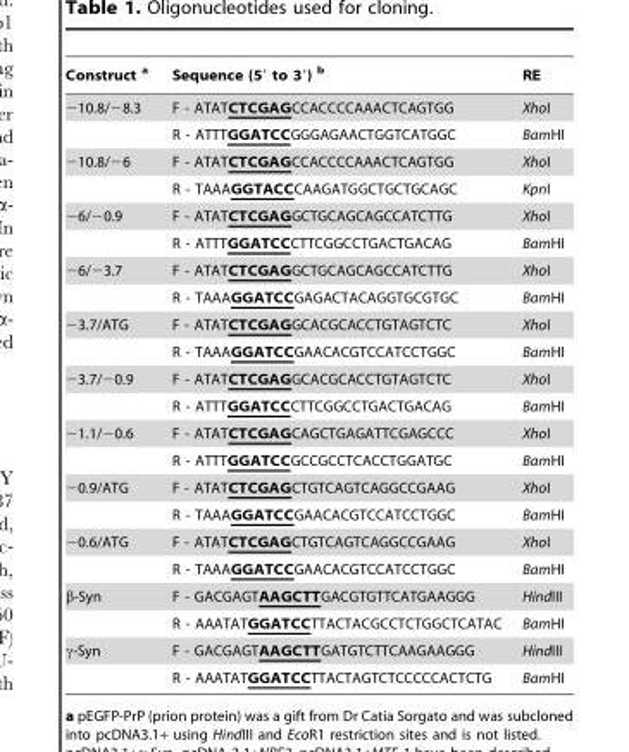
<table><thead><tr><td>Construct a</td><td>Sequence (5′ to 3′) b</td><td>RE</td></tr></thead><tbody><tr><td rowspan="2">−10.8/−8.3</td><td>F - ATATCTCGAGCCACCCCAAACTCAGTGG</td><td>XhoI</td></tr><tr><td>R - ATTTGGATCCGGGAGAACTGGTCATGGC</td><td>BamHI</td></tr><tr><td rowspan="2">−10.8/−6</td><td>F - ATATCTCGAGCCACCCCAAACTCAGTGG</td><td>XhoI</td></tr><tr><td>R - TAAAGGTACCCAAGATGGCTGCTGCAGC</td><td>KpnI</td></tr><tr><td rowspan="2">−6/−0.9</td><td>F - ATATCTCGAGGCTGCAGCAGCCATCTTG</td><td>XhoI</td></tr><tr><td>R - ATTTGGATCCCTTCGGCCTGACTGACAG</td><td>BamHI</td></tr><tr><td rowspan="2">−6/−3.7</td><td>F - ATATCTCGAGGCTGCAGCAGCCATCTTG</td><td>XhoI</td></tr><tr><td>R - TAAAGGATCCGAGACTACAGGTGCGTGC</td><td>BamHI</td></tr><tr><td rowspan="2">−3.7/ATG</td><td>F - ATATCTCGAGGCACGCACCTGTAGTCTC</td><td>XhoI</td></tr><tr><td>R - TAAAGGATCCGAACACGTCCATCCTGGC</td><td>BamHI</td></tr><tr><td rowspan="2">−3.7/−0.9</td><td>F - ATATCTCGAGGCACGCACCTGTAGTCTC</td><td>XhoI</td></tr><tr><td>R - ATTTGGATCCCTTCGGCCTGACTGACAG</td><td>BamHI</td></tr><tr><td rowspan="2">−1.1/−0.6</td><td>F - ATATCTCGAGCAGCTGAGATTCGAGCCC</td><td>XhoI</td></tr><tr><td>R - ATTTGGATCCGCCGCCTCACCTGGATGC</td><td>BamHI</td></tr><tr><td rowspan="2">−0.9/ATG</td><td>F - ATATCTCGAGCTGTCAGTCAGGCCGAAG</td><td>XhoI</td></tr><tr><td>R - TAAAGGATCCGAACACGTCCATCCTGGC</td><td>BamHI</td></tr><tr><td rowspan="2">−0.6/ATG</td><td>F - ATATCTCGAGCTGTCAGTCAGGCCGAAG</td><td>XhoI</td></tr><tr><td>R - TAAAGGATCCGAACACGTCCATCCTGGC</td><td>BamHI</td></tr><tr><td rowspan="2">β-Syn</td><td>F - GACGAGTAAGCTTGACGTGTTCATGAAGGG</td><td>HindIII</td></tr><tr><td>R - AAATATGGATCCTTACTACGCCTCTGGCTCATAC</td><td>BamHI</td></tr><tr><td rowspan="2">γ-Syn</td><td>F - GACGAGTAAGCTTGATGTCTTCAAGAAGGG</td><td>HindIII</td></tr><tr><td>R - AAATATGGATCCTTACTAGTCTCCCCCACTCTG</td><td>BamHI</td></tr></tbody></table>